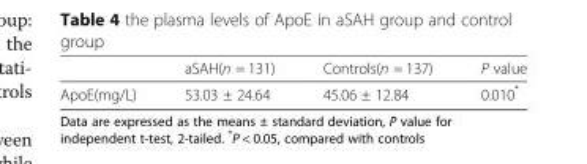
<table><thead><tr><td></td><td>aSAH(n = 131)</td><td>Controls(n = 137)</td><td>P value</td></tr></thead><tbody><tr><td>ApoE(mg/L)</td><td>53.03 ± 24.64</td><td>45.06 ± 12.84</td><td>0.010*</td></tr></tbody></table>